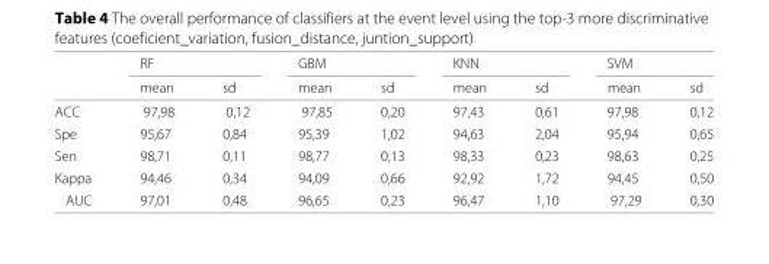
<table><thead><tr><td rowspan="2"></td><td rowspan="2">RF mean</td><td rowspan="2">sd</td><td rowspan="2">GBM mean</td><td rowspan="2">sd</td><td rowspan="2">KNN mean</td><td rowspan="2">sd</td><td rowspan="2">SVM mean</td><td rowspan="2">sd</td></tr><tr></tr></thead><tbody><tr><td>ACC</td><td>97,98</td><td>0,12</td><td>97,85</td><td>0,20</td><td>97,43</td><td>0,61</td><td>97,98</td><td>0,12</td></tr><tr><td>Spe</td><td>95,67</td><td>0,84</td><td>95,39</td><td>1,02</td><td>94,63</td><td>2,04</td><td>95,94</td><td>0,65</td></tr><tr><td>Sen</td><td>98,71</td><td>0,11</td><td>98,77</td><td>0,13</td><td>98,33</td><td>0,23</td><td>98,63</td><td>0,25</td></tr><tr><td>Kappa</td><td>94,46</td><td>0,34</td><td>94,09</td><td>0,66</td><td>92,92</td><td>1,72</td><td>94,45</td><td>0,50</td></tr><tr><td>AUC</td><td>97,01</td><td>0,48</td><td>96,65</td><td>0,23</td><td>96,47</td><td>1,10</td><td>97,29</td><td>0,30</td></tr></tbody></table>